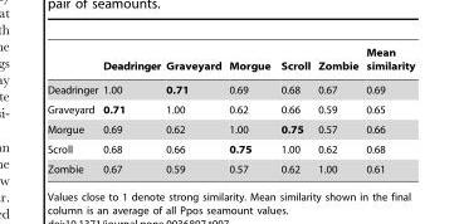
<table><thead><tr><td></td><td>Deadringer</td><td>Graveyard</td><td>Morgue</td><td>Scroll</td><td>Zombie</td><td>Mean similarity</td></tr></thead><tbody><tr><td>Deadringer</td><td>1.00</td><td>0.71</td><td>0.69</td><td>0.68</td><td>0.67</td><td>0.69</td></tr><tr><td>Graveyard</td><td>0.71</td><td>1.00</td><td>0.62</td><td>0.66</td><td>0.59</td><td>0.65</td></tr><tr><td>Morgue</td><td>0.69</td><td>0.62</td><td>1.00</td><td>0.75</td><td>0.57</td><td>0.66</td></tr><tr><td>Scroll</td><td>0.68</td><td>0.66</td><td>0.75</td><td>1.00</td><td>0.62</td><td>0.68</td></tr><tr><td>Zombie</td><td>0.67</td><td>0.59</td><td>0.57</td><td>0.62</td><td>1.00</td><td>0.61</td></tr></tbody></table>